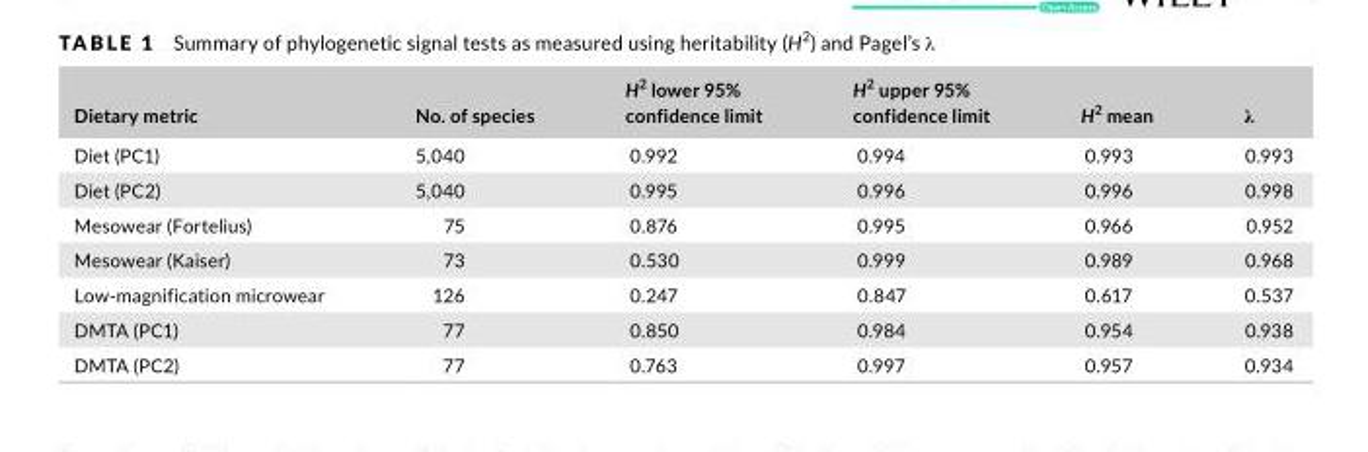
<table><thead><tr><td>Dietary metric</td><td>No. of species</td><td>H<sup>2</sup> lower 95% confidence limit</td><td>H<sup>2</sup> upper 95% confidence limit</td><td>H<sup>2</sup> mean</td><td>λ</td></tr></thead><tbody><tr><td>Diet (PC1)</td><td>5,040</td><td>0.992</td><td>0.994</td><td>0.993</td><td>0.993</td></tr><tr><td>Diet (PC2)</td><td>5,040</td><td>0.995</td><td>0.996</td><td>0.996</td><td>0.998</td></tr><tr><td>Mesowear (Fortelius)</td><td>75</td><td>0.876</td><td>0.995</td><td>0.966</td><td>0.952</td></tr><tr><td>Mesowear (Kaiser)</td><td>73</td><td>0.530</td><td>0.999</td><td>0.989</td><td>0.968</td></tr><tr><td>Low- magnification microwear</td><td>126</td><td>0.247</td><td>0.847</td><td>0.617</td><td>0.537</td></tr><tr><td>DMTA (PC1)</td><td>77</td><td>0.850</td><td>0.984</td><td>0.954</td><td>0.938</td></tr><tr><td>DMTA (PC2)</td><td>77</td><td>0.763</td><td>0.997</td><td>0.957</td><td>0.934</td></tr></tbody></table>